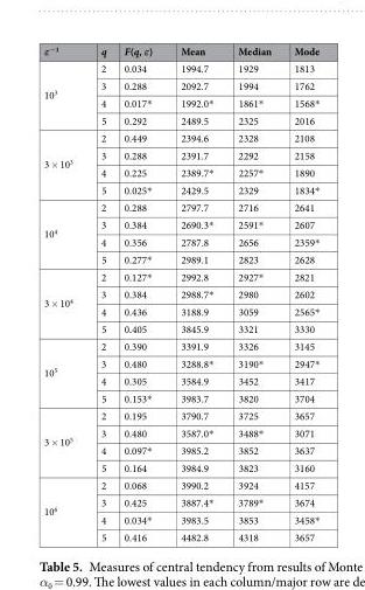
<table><thead><tr><td>ε<sup>−1</sup></td><td>q</td><td>F(q, ε)</td><td>Mean</td><td>Median</td><td>Mode</td></tr></thead><tbody><tr><td rowspan="4">10<sup>3</sup></td><td>2</td><td>0.034</td><td>1994.7</td><td>1929</td><td>1813</td></tr><tr><td>3</td><td>0.288</td><td>2092.7</td><td>1994</td><td>1762</td></tr><tr><td>4</td><td>0.017*</td><td>1992.0*</td><td>1861*</td><td>1568*</td></tr><tr><td>5</td><td>0.292</td><td>2489.5</td><td>2325</td><td>2016</td></tr><tr><td rowspan="4">3 × 10<sup>3</sup></td><td>2</td><td>0.449</td><td>2394.6</td><td>2328</td><td>2108</td></tr><tr><td>3</td><td>0.288</td><td>2391.7</td><td>2292</td><td>2158</td></tr><tr><td>4</td><td>0.225</td><td>2389.7*</td><td>2257*</td><td>1890</td></tr><tr><td>5</td><td>0.025*</td><td>2429.5</td><td>2329</td><td>1834*</td></tr><tr><td rowspan="4">10<sup>4</sup></td><td>2</td><td>0.288</td><td>2797.7</td><td>2716</td><td>2641</td></tr><tr><td>3</td><td>0.384</td><td>2690.3*</td><td>2591*</td><td>2607</td></tr><tr><td>4</td><td>0.356</td><td>2787.8</td><td>2656</td><td>2359*</td></tr><tr><td>5</td><td>0.277*</td><td>2989.1</td><td>2823</td><td>2628</td></tr><tr><td rowspan="4">3 × 10<sup>4</sup></td><td>2</td><td>0.127*</td><td>2992.8</td><td>2927*</td><td>2821</td></tr><tr><td>3</td><td>0.384</td><td>2988.7*</td><td>2980</td><td>2602</td></tr><tr><td>4</td><td>0.436</td><td>3188.9</td><td>3059</td><td>2565*</td></tr><tr><td>5</td><td>0.405</td><td>3845.9</td><td>3321</td><td>3330</td></tr><tr><td rowspan="4">10<sup>5</sup></td><td>2</td><td>0.390</td><td>3391.9</td><td>3326</td><td>3145</td></tr><tr><td>3</td><td>0.480</td><td>3288.8*</td><td>3190*</td><td>2947*</td></tr><tr><td>4</td><td>0.305</td><td>3584.9</td><td>3452</td><td>3417</td></tr><tr><td>5</td><td>0.153*</td><td>3983.7</td><td>3820</td><td>3704</td></tr><tr><td rowspan="4">3 × 10<sup>5</sup></td><td>2</td><td>0.195</td><td>3790.7</td><td>3725</td><td>3657</td></tr><tr><td>3</td><td>0.480</td><td>3587.0*</td><td>3488*</td><td>3071</td></tr><tr><td>4</td><td>0.097*</td><td>3985.2</td><td>3852</td><td>3637</td></tr><tr><td>5</td><td>0.164</td><td>3984.9</td><td>3823</td><td>3160</td></tr><tr><td rowspan="4">10<sup>6</sup></td><td>2</td><td>0.068</td><td>3990.2</td><td>3924</td><td>4157</td></tr><tr><td>3</td><td>0.425</td><td>3887.4*</td><td>3789*</td><td>3674</td></tr><tr><td>4</td><td>0.034*</td><td>3983.5</td><td>3853</td><td>3458*</td></tr><tr><td>5</td><td>0.416</td><td>4482.8</td><td>4318</td><td>3657</td></tr></tbody></table>